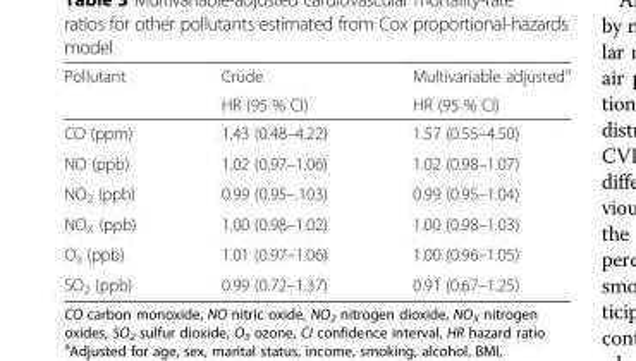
<table><thead><tr><td rowspan="2">Pollutant</td><td rowspan="2">Crude HR (95 % CI)</td><td rowspan="2">Multivariable adjusted<sup>a</sup> HR (95 % CI)</td></tr><tr></tr></thead><tbody><tr><td>CO (ppm)</td><td>1.43 (0.48–4.22)</td><td>1.57 (0.55–4.50)</td></tr><tr><td>NO (ppb)</td><td>1.02 (0.97–1.06)</td><td>1.02 (0.98–1.07)</td></tr><tr><td>NO<sub>2</sub> (ppb)</td><td>0.99 (0.95–.103)</td><td>0.99 (0.95–1.04)</td></tr><tr><td>NO<sub>X</sub> (ppb)</td><td>1.00 (0.98–1.02)</td><td>1.00 (0.98–1.03)</td></tr><tr><td>O<sub>3</sub> (ppb)</td><td>1.01 (0.97–1.06)</td><td>1.00 (0.96–1.05)</td></tr><tr><td>SO<sub>2</sub> (ppb)</td><td>0.99 (0.72–1.37)</td><td>0.91 (0.67–1.25)</td></tr></tbody></table>